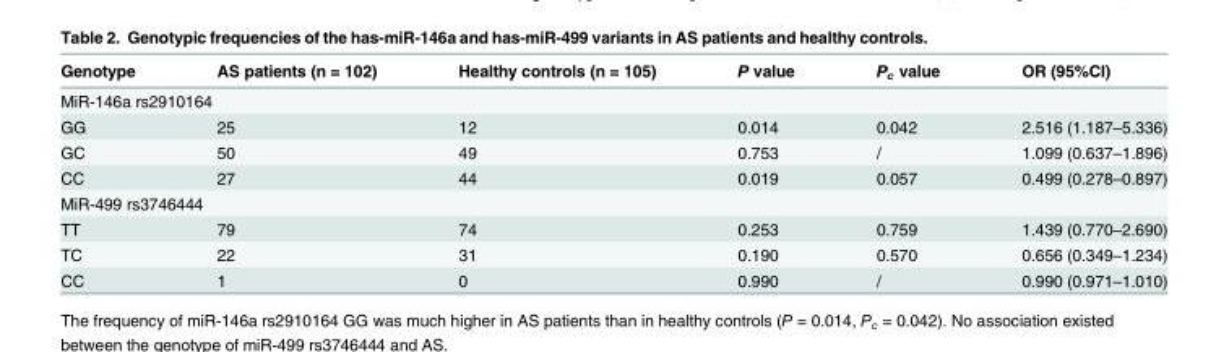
<table><thead><tr><td>Genotype</td><td>AS patients (n = 102)</td><td>Healthy controls (n = 105)</td><td>P value</td><td>P<sub>c</sub> value</td><td>OR (95%CI)</td></tr></thead><tbody><tr><td colspan="6">MiR-146a rs2910164</td></tr><tr><td>GG</td><td>25</td><td>12</td><td>0.014</td><td>0.042</td><td>2.516 (1.187–5.336)</td></tr><tr><td>GC</td><td>50</td><td>49</td><td>0.753</td><td>/</td><td>1.099 (0.637–1.896)</td></tr><tr><td>CC</td><td>27</td><td>44</td><td>0.019</td><td>0.057</td><td>0.499 (0.278–0.897)</td></tr><tr><td colspan="6">MiR-499 rs3746444</td></tr><tr><td>TT</td><td>79</td><td>74</td><td>0.253</td><td>0.759</td><td>1.439 (0.770–2.690)</td></tr><tr><td>TC</td><td>22</td><td>31</td><td>0.190</td><td>0.570</td><td>0.656 (0.349–1.234)</td></tr><tr><td>CC</td><td>1</td><td>0</td><td>0.990</td><td>/</td><td>0.990 (0.971–1.010)</td></tr></tbody></table>